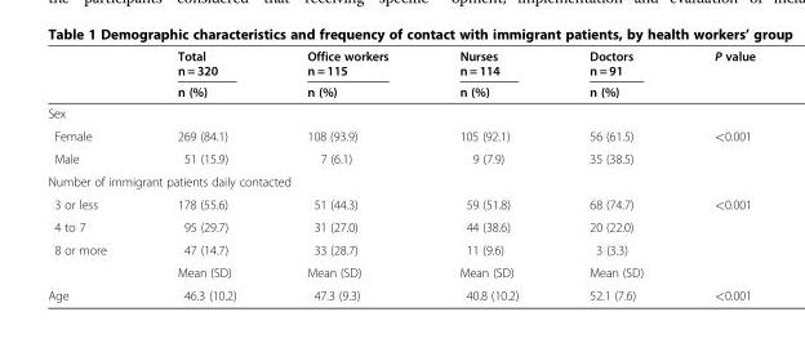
<table><thead><tr><td rowspan="2"></td><td rowspan="2">Total n = 320 n (%)</td><td rowspan="2">Office workers n = 115 n (%)</td><td rowspan="2">Nurses n = 114 n (%)</td><td rowspan="2">Doctors n = 91 n (%)</td><td rowspan="2">P value</td></tr><tr></tr></thead><tbody><tr><td colspan="6">Sex</td></tr><tr><td>Female</td><td>269 (84.1)</td><td>108 (93.9)</td><td>105 (92.1)</td><td>56 (61.5)</td><td>&lt;0.001</td></tr><tr><td>Male</td><td>51 (15.9)</td><td>7 (6.1)</td><td>9 (7.9)</td><td>35 (38.5)</td><td></td></tr><tr><td colspan="6">Number of immigrant patients daily contacted</td></tr><tr><td>3 or less</td><td>178 (55.6)</td><td>51 (44.3)</td><td>59 (51.8)</td><td>68 (74.7)</td><td>&lt;0.001</td></tr><tr><td>4 to 7</td><td>95 (29.7)</td><td>31 (27.0)</td><td>44 (38.6)</td><td>20 (22.0)</td><td></td></tr><tr><td rowspan="2">8 or more</td><td>47 (14.7)</td><td>33 (28.7)</td><td>11 (9.6)</td><td>3 (3.3)</td><td></td></tr><tr><td>Mean (SD)</td><td>Mean (SD)</td><td>Mean (SD)</td><td>Mean (SD)</td><td></td></tr><tr><td>Age</td><td>46.3 (10.2)</td><td>47.3 (9.3)</td><td>40.8 (10.2)</td><td>52.1 (7.6)</td><td>&lt;0.001</td></tr></tbody></table>